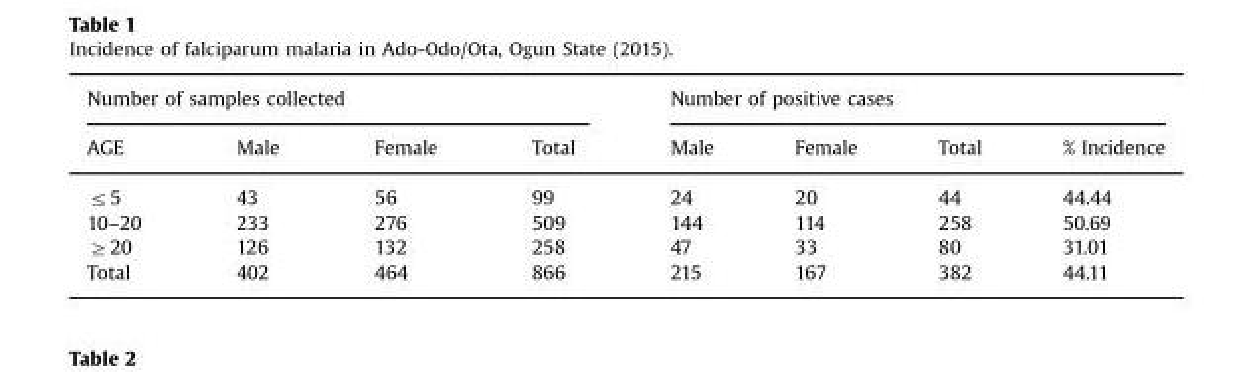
<table><thead><tr><td colspan="4">Number of samples collected</td><td colspan="4">Number of positive cases</td></tr><tr><td>AGE</td><td>Male</td><td>Female</td><td>Total</td><td>Male</td><td>Female</td><td>Total</td><td>% Incidence</td></tr></thead><tbody><tr><td>≤5</td><td>43</td><td>56</td><td>99</td><td>24</td><td>20</td><td>44</td><td>44.44</td></tr><tr><td>10–20</td><td>233</td><td>276</td><td>509</td><td>144</td><td>114</td><td>258</td><td>50.69</td></tr><tr><td>≥20</td><td>126</td><td>132</td><td>258</td><td>47</td><td>33</td><td>80</td><td>31.01</td></tr><tr><td>Total</td><td>402</td><td>464</td><td>866</td><td>215</td><td>167</td><td>382</td><td>44.11</td></tr></tbody></table>